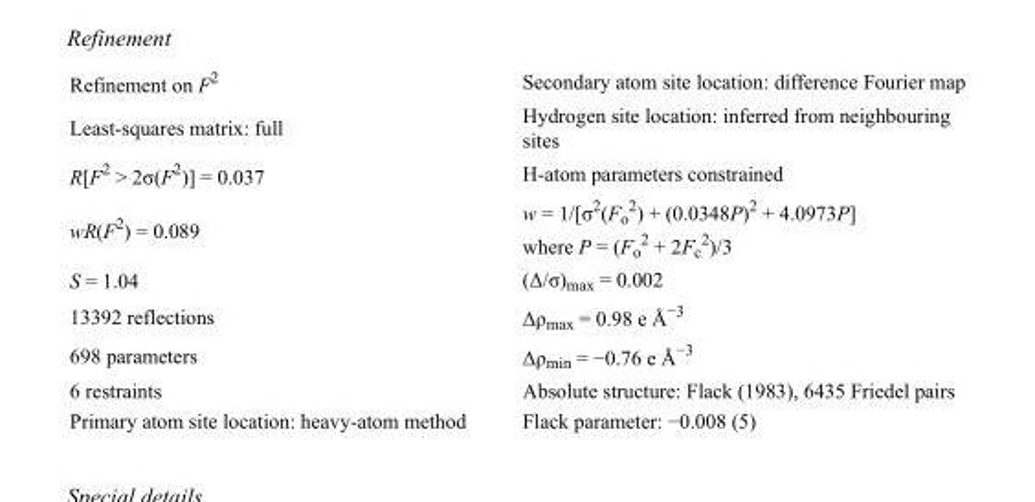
<table><tbody><tr><td>Refinement on F<sup>2</sup></td><td>Secondary atom site location: difference Fourier map</td></tr><tr><td>Least-squares matrix: full</td><td>Hydrogen site location: inferred from neighbouring sites</td></tr><tr><td>R[F<sup>2</sup> &gt; 2σ(F<sup>2</sup>)] = 0.037</td><td>H-atom parameters constrained</td></tr><tr><td>wR(F<sup>2</sup>) = 0.089</td><td>w = 1/[σ<sup>2</sup>(F<sub>o</sub> <sup>2</sup>) + (0.0348P)<sup>2</sup> + 4.0973P] where P = (F<sub>o</sub> <sup>2</sup> + 2F<sub>c</sub> <sup>2</sup>)/3</td></tr><tr><td>S = 1.04</td><td>(Δ/σ)<sub>max</sub> = 0.002</td></tr><tr><td>13392 reflections</td><td>Δρ<sub>max</sub> = 0.98 e Å<sup>−3</sup></td></tr><tr><td>698 parameters</td><td>Δρ<sub>min</sub> = −0.76 e Å<sup>−3</sup></td></tr><tr><td>6 restraints</td><td>Absolute structure: Flack (1983), 6435 Friedel pairs</td></tr><tr><td>Primary atom site location: heavy-atom method</td><td>Flack parameter: −0.008 (5)</td></tr></tbody></table>